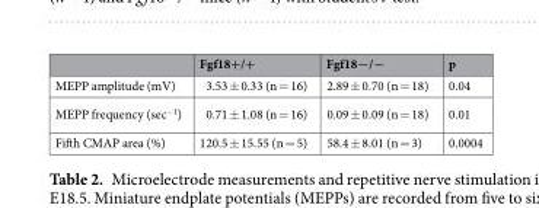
<table><thead><tr><td></td><td>Fgf18+/+</td><td>Fgf18−/−</td><td>p</td></tr></thead><tbody><tr><td>MEPP amplitude (mV)</td><td>3.53 ± 0.33 (n = 16)</td><td>2.89 ± 0.70 (n = 18)</td><td>0.04</td></tr><tr><td>MEPP frequency (sec<sup>−1</sup>)</td><td>0.71 ± 1.08 (n = 16)</td><td>0.09 ± 0.09 (n = 18)</td><td>0.01</td></tr><tr><td>Fifth CMAP area (%)</td><td>120.5 ± 15.55 (n = 5)</td><td>58.4 ± 8.01 (n = 3)</td><td>0.0004</td></tr></tbody></table>